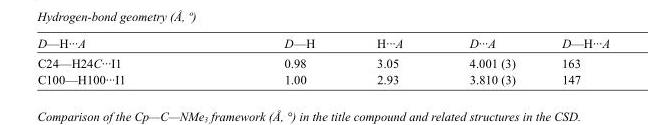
<table><tbody><tr><td>D—H···A</td><td>D—H</td><td>H···A</td><td>D···A</td><td>D—H···A</td></tr><tr><td>C24—H24C···I1</td><td>0.98</td><td>3.05</td><td>4.001 (3)</td><td>163</td></tr><tr><td>C100—H100···I1</td><td>1.00</td><td>2.93</td><td>3.810 (3)</td><td>147</td></tr></tbody></table>